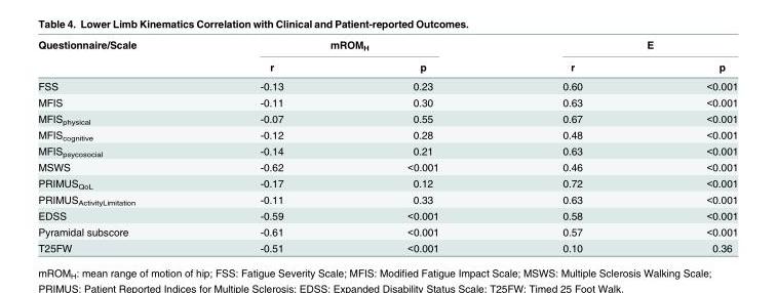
<table><thead><tr><td rowspan="2">Questionnaire/Scale</td><td colspan="2">mROM<sub>H</sub></td><td colspan="2">E</td></tr><tr><td>r</td><td>p</td><td>r</td><td>p</td></tr></thead><tbody><tr><td>FSS</td><td>-0.13</td><td>0.23</td><td>0.60</td><td>&lt;0.001</td></tr><tr><td>MFIS</td><td>-0.11</td><td>0.30</td><td>0.63</td><td>&lt;0.001</td></tr><tr><td>MFIS<sub>physical</sub></td><td>-0.07</td><td>0.55</td><td>0.67</td><td>&lt;0.001</td></tr><tr><td>MFIS<sub>cognitive</sub></td><td>-0.12</td><td>0.28</td><td>0.48</td><td>&lt;0.001</td></tr><tr><td>MFIS<sub>psycosocial</sub></td><td>-0.14</td><td>0.21</td><td>0.63</td><td>&lt;0.001</td></tr><tr><td>MSWS</td><td>-0.62</td><td>&lt;0.001</td><td>0.46</td><td>&lt;0.001</td></tr><tr><td>PRIMUS<sub>QoL</sub></td><td>-0.17</td><td>0.12</td><td>0.72</td><td>&lt;0.001</td></tr><tr><td>PRIMUS<sub>ActivityLimitation</sub></td><td>-0.11</td><td>0.33</td><td>0.63</td><td>&lt;0.001</td></tr><tr><td>EDSS</td><td>-0.59</td><td>&lt;0.001</td><td>0.58</td><td>&lt;0.001</td></tr><tr><td>Pyramidal subscore</td><td>-0.61</td><td>&lt;0.001</td><td>0.57</td><td>&lt;0.001</td></tr><tr><td>T25FW</td><td>-0.51</td><td>&lt;0.001</td><td>0.10</td><td>0.36</td></tr></tbody></table>